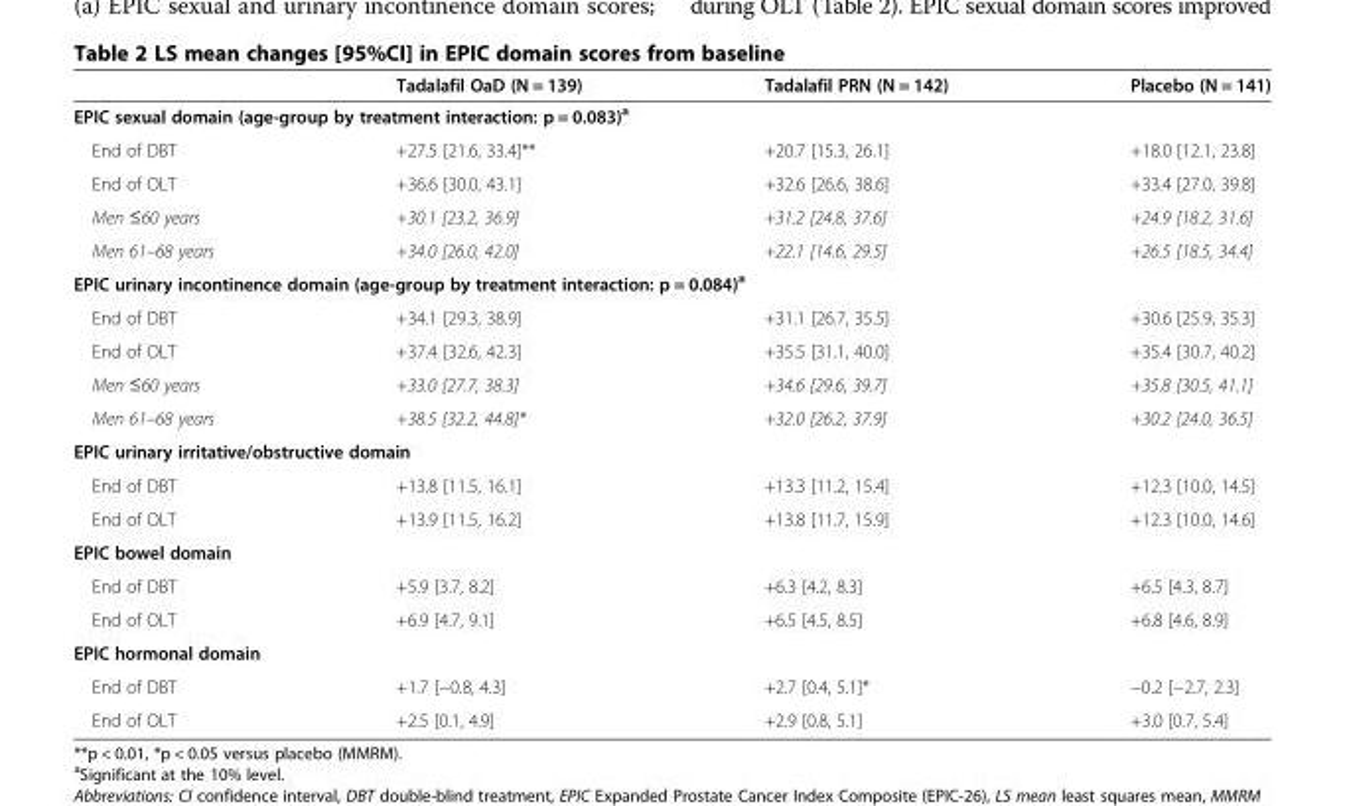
<table><thead><tr><td></td><td>Tadalafil OaD (N = 139)</td><td>Tadalafil PRN (N = 142)</td><td>Placebo (N = 141)</td></tr></thead><tbody><tr><td colspan="4">EPIC sexual domain (age-group by treatment interaction: p = 0.083)<sup>a</sup></td></tr><tr><td>End of DBT</td><td>+27.5 [21.6, 33.4]**</td><td>+20.7 [15.3, 26.1]</td><td>+18.0 [12.1, 23.8]</td></tr><tr><td>End of OLT</td><td>+36.6 [30.0, 43.1]</td><td>+32.6 [26.6, 38.6]</td><td>+33.4 [27.0, 39.8]</td></tr><tr><td>Men ≤60 years</td><td>+30.1 [23.2, 36.9]</td><td>+31.2 [24.8, 37.6]</td><td>+24.9 [18.2, 31.6]</td></tr><tr><td>Men 61–68 years</td><td>+34.0 [26.0, 42.0]</td><td>+22.1 [14.6, 29.5]</td><td>+26.5 [18.5, 34.4]</td></tr><tr><td colspan="4">EPIC urinary incontinence domain (age-group by treatment interaction: p = 0.084)<sup>a</sup></td></tr><tr><td>End of DBT</td><td>+34.1 [29.3, 38.9]</td><td>+31.1 [26.7, 35.5]</td><td>+30.6 [25.9, 35.3]</td></tr><tr><td>End of OLT</td><td>+37.4 [32.6, 42.3]</td><td>+35.5 [31.1, 40.0]</td><td>+35.4 [30.7, 40.2]</td></tr><tr><td>Men ≤60 years</td><td>+33.0 [27.7, 38.3]</td><td>+34.6 [29.6, 39.7]</td><td>+35.8 [30.5, 41.1]</td></tr><tr><td>Men 61–68 years</td><td>+38.5 [32.2, 44.8]*</td><td>+32.0 [26.2, 37.9]</td><td>+30.2 [24.0, 36.5]</td></tr><tr><td colspan="4">EPIC urinary irritative/obstructive domain</td></tr><tr><td>End of DBT</td><td>+13.8 [11.5, 16.1]</td><td>+13.3 [11.2, 15.4]</td><td>+12.3 [10.0, 14.5]</td></tr><tr><td>End of OLT</td><td>+13.9 [11.5, 16.2]</td><td>+13.8 [11.7, 15.9]</td><td>+12.3 [10.0, 14.6]</td></tr><tr><td colspan="4">EPIC bowel domain</td></tr><tr><td>End of DBT</td><td>+5.9 [3.7, 8.2]</td><td>+6.3 [4.2, 8.3]</td><td>+6.5 [4.3, 8.7]</td></tr><tr><td>End of OLT</td><td>+6.9 [4.7, 9.1]</td><td>+6.5 [4.5, 8.5]</td><td>+6.8 [4.6, 8.9]</td></tr><tr><td colspan="4">EPIC hormonal domain</td></tr><tr><td>End of DBT</td><td>+1.7 [−0.8, 4.3]</td><td>+2.7 [0.4, 5.1]*</td><td>−0.2 [−2.7, 2.3]</td></tr><tr><td>End of OLT</td><td>+2.5 [0.1, 4.9]</td><td>+2.9 [0.8, 5.1]</td><td>+3.0 [0.7, 5.4]</td></tr></tbody></table>